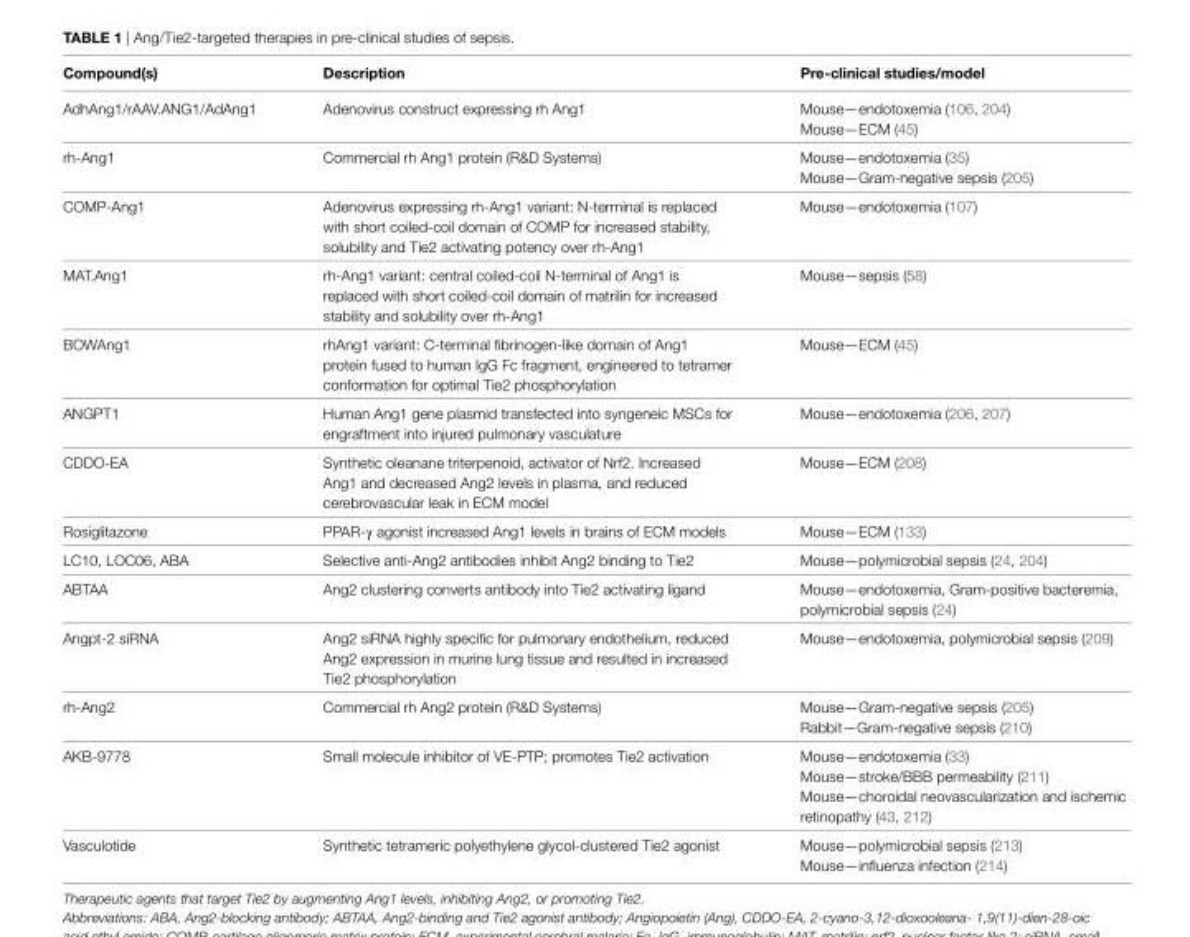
<table><thead><tr><td>Compound(s)</td><td>Description</td><td>Pre-clinical studies/model</td></tr></thead><tbody><tr><td>AdhAng1/rAAV.ANG1/AdAng1</td><td>Adenovirus construct expressing rh Ang1</td><td>Mouse—endotoxemia (106, 204) Mouse—ECM (45)</td></tr><tr><td>rh-Ang1</td><td>Commercial rh Ang1 protein (R&amp;D Systems)</td><td>Mouse—endotoxemia (35) Mouse—Gram-negative sepsis (205)</td></tr><tr><td>COMP-Ang1</td><td>Adenovirus expressing rh-Ang1 variant: N-terminal is replaced with short coiled-coil domain of COMP for increased stability, solubility and Tie2 activating potency over rh-Ang1</td><td>Mouse—endotoxemia (107)</td></tr><tr><td>MAT.Ang1</td><td>rh-Ang1 variant: central coiled-coil N-terminal of Ang1 is replaced with short coiled-coil domain of matrilin for increased stability and solubility over rh-Ang1</td><td>Mouse—sepsis (58)</td></tr><tr><td>BOWAng1</td><td>rhAng1 variant: C-terminal fibrinogen-like domain of Ang1 protein fused to human IgG Fc fragment, engineered to tetramer conformation for optimal Tie2 phosphorylation</td><td>Mouse—ECM (45)</td></tr><tr><td>ANGPT1</td><td>Human Ang1 gene plasmid transfected into syngeneic MSCs for engraftment into injured pulmonary vasculature</td><td>Mouse—endotoxemia (206, 207)</td></tr><tr><td>CDDO-EA</td><td>Synthetic oleanane triterpenoid, activator of Nrf2. Increased Ang1 and decreased Ang2 levels in plasma, and reduced cerebrovascular leak in ECM model</td><td>Mouse—ECM (208)</td></tr><tr><td>Rosiglitazone</td><td>PPAR-γ agonist increased Ang1 levels in brains of ECM models</td><td>Mouse—ECM (133)</td></tr><tr><td>LC10, LOC06, ABA</td><td>Selective anti-Ang2 antibodies inhibit Ang2 binding to Tie2</td><td>Mouse—polymicrobial sepsis (24, 204)</td></tr><tr><td>ABTAA</td><td>Ang2 clustering converts antibody into Tie2 activating ligand</td><td>Mouse—endotoxemia, Gram-positive bacteremia, polymicrobial sepsis (24)</td></tr><tr><td>Angpt-2 siRNA</td><td>Ang2 siRNA highly specific for pulmonary endothelium, reduced Ang2 expression in murine lung tissue and resulted in increased Tie2 phosphorylation</td><td>Mouse—endotoxemia, polymicrobial sepsis (209)</td></tr><tr><td>rh-Ang2</td><td>Commercial rh Ang2 protein (R&amp;D Systems)</td><td>Mouse—Gram-negative sepsis (205) Rabbit—Gram-negative sepsis (210)</td></tr><tr><td>AKB-9778</td><td>Small molecule inhibitor of VE-PTP; promotes Tie2 activation</td><td>Mouse—endotoxemia (33) Mouse—stroke/BBB permeability (211) Mouse—choroidal neovascularization and ischemic retinopathy (43, 212)</td></tr><tr><td>Vasculotide</td><td>Synthetic tetrameric polyethylene glycol-clustered Tie2 agonist</td><td>Mouse—polymicrobial sepsis (213) Mouse—influenza infection (214)</td></tr></tbody></table>